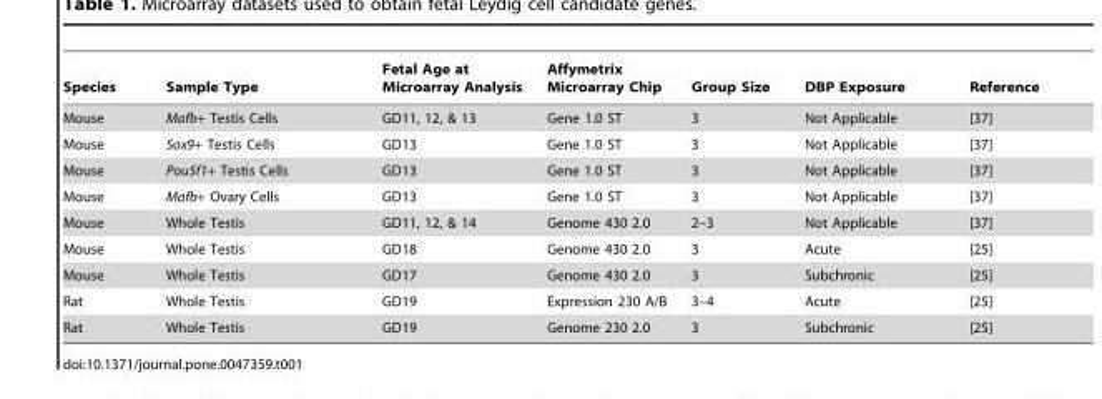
<table><thead><tr><td>Species</td><td>Sample Type</td><td>Fetal Age at Microarray Analysis</td><td>Affymetrix Microarray Chip</td><td>Group Size</td><td>DBP Exposure</td><td>Reference</td></tr></thead><tbody><tr><td>Mouse</td><td>Mafb+ Testis Cells</td><td>GD11, 12, &amp; 13</td><td>Gene 1.0 ST</td><td>3</td><td>Not Applicable</td><td>[37]</td></tr><tr><td>Mouse</td><td>Sox9+ Testis Cells</td><td>GD13</td><td>Gene 1.0 ST</td><td>3</td><td>Not Applicable</td><td>[37]</td></tr><tr><td>Mouse</td><td>Pou5f1+ Testis Cells</td><td>GD13</td><td>Gene 1.0 ST</td><td>3</td><td>Not Applicable</td><td>[37]</td></tr><tr><td>Mouse</td><td>Mafb+ Ovary Cells</td><td>GD13</td><td>Gene 1.0 ST</td><td>3</td><td>Not Applicable</td><td>[37]</td></tr><tr><td>Mouse</td><td>Whole Testis</td><td>GD11, 12, &amp; 14</td><td>Genome 430 2.0</td><td>2–3</td><td>Not Applicable</td><td>[37]</td></tr><tr><td>Mouse</td><td>Whole Testis</td><td>GD18</td><td>Genome 430 2.0</td><td>3</td><td>Acute</td><td>[25]</td></tr><tr><td>Mouse</td><td>Whole Testis</td><td>GD17</td><td>Genome 430 2.0</td><td>3</td><td>Subchronic</td><td>[25]</td></tr><tr><td>Rat</td><td>Whole Testis</td><td>GD19</td><td>Expression 230 A/B</td><td>3–4</td><td>Acute</td><td>[25]</td></tr><tr><td>Rat</td><td>Whole Testis</td><td>GD19</td><td>Genome 230 2.0</td><td>3</td><td>Subchronic</td><td>[25]</td></tr></tbody></table>